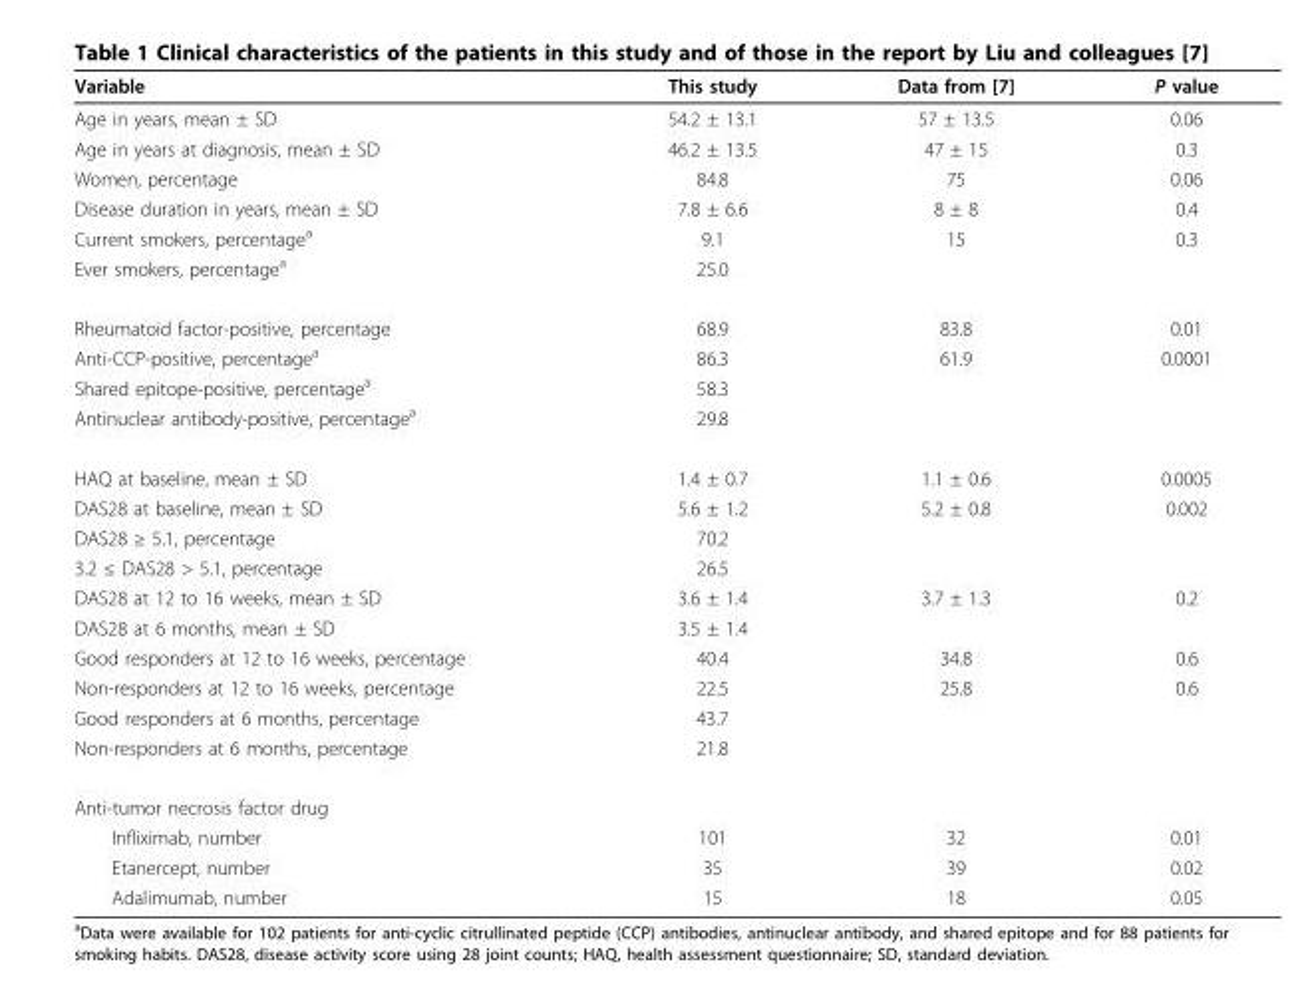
<table><thead><tr><td>Variable</td><td>This study</td><td>Data from [7]</td><td>P value</td></tr></thead><tbody><tr><td>Age in years, mean ± SD</td><td>54.2 ± 13.1</td><td>57 ± 13.5</td><td>0.06</td></tr><tr><td>Age in years at diagnosis, mean ± SD</td><td>46.2 ± 13.5</td><td>47 ± 15</td><td>0.3</td></tr><tr><td>Women, percentage</td><td>84.8</td><td>75</td><td>0.06</td></tr><tr><td>Disease duration in years, mean ± SD</td><td>7.8 ± 6.6</td><td>8 ± 8</td><td>0.4</td></tr><tr><td>Current smokers, percentage<sup>a</sup></td><td>9.1</td><td>15</td><td>0.3</td></tr><tr><td>Ever smokers, percentage<sup>a</sup></td><td>25.0</td><td></td><td></td></tr><tr><td>Rheumatoid factor-positive, percentage</td><td>68.9</td><td>83.8</td><td>0.01</td></tr><tr><td>Anti-CCP-positive, percentage<sup>a</sup></td><td>86.3</td><td>61.9</td><td>0.0001</td></tr><tr><td>Shared epitope-positive, percentage<sup>a</sup></td><td>58.3</td><td></td><td></td></tr><tr><td>Antinuclear antibody-positive, percentage<sup>a</sup></td><td>29.8</td><td></td><td></td></tr><tr><td>HAQ at baseline, mean ± SD</td><td>1.4 ± 0.7</td><td>1.1 ± 0.6</td><td>0.0005</td></tr><tr><td>DAS28 at baseline, mean ± SD</td><td>5.6 ± 1.2</td><td>5.2 ± 0.8</td><td>0.002</td></tr><tr><td>DAS28 ≥ 5.1, percentage</td><td>70.2</td><td></td><td></td></tr><tr><td>3.2 ≤ DAS28 &gt; 5.1, percentage</td><td>26.5</td><td></td><td></td></tr><tr><td>DAS28 at 12 to 16 weeks, mean ± SD</td><td>3.6 ± 1.4</td><td>3.7 ± 1.3</td><td>0.2</td></tr><tr><td>DAS28 at 6 months, mean ± SD</td><td>3.5 ± 1.4</td><td></td><td></td></tr><tr><td>Good responders at 12 to 16 weeks, percentage</td><td>40.4</td><td>34.8</td><td>0.6</td></tr><tr><td>Non-responders at 12 to 16 weeks, percentage</td><td>22.5</td><td>25.8</td><td>0.6</td></tr><tr><td>Good responders at 6 months, percentage</td><td>43.7</td><td></td><td></td></tr><tr><td>Non-responders at 6 months, percentage</td><td>21.8</td><td></td><td></td></tr><tr><td colspan="4">Anti-tumor necrosis factor drug</td></tr><tr><td>Infliximab, number</td><td>101</td><td>32</td><td>0.01</td></tr><tr><td>Etanercept, number</td><td>35</td><td>39</td><td>0.02</td></tr><tr><td>Adalimumab, number</td><td>15</td><td>18</td><td>0.05</td></tr></tbody></table>